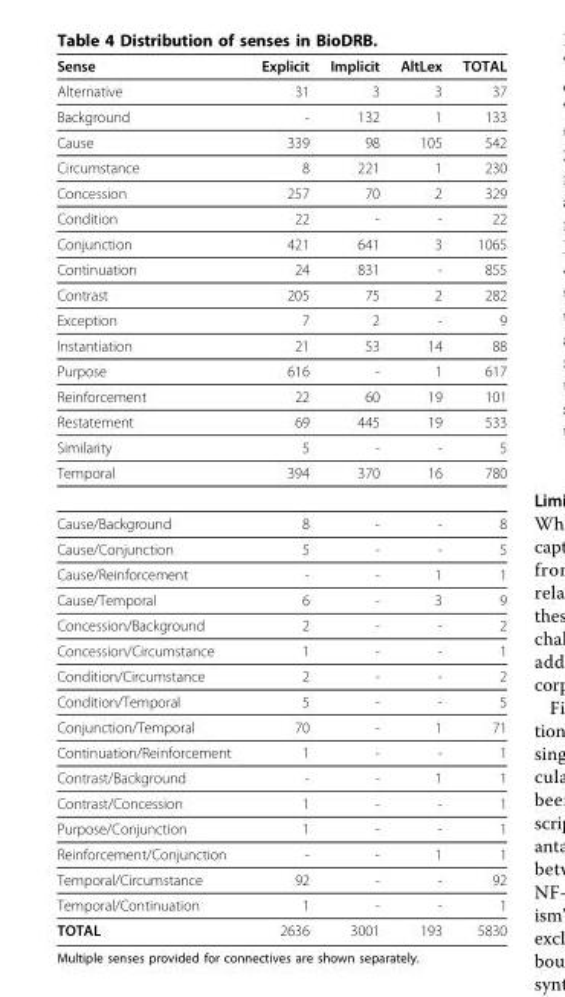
<table><thead><tr><td>Sense</td><td>Explicit</td><td>Implicit</td><td>AltLex</td><td>TOTAL</td></tr></thead><tbody><tr><td>Alternative</td><td>31</td><td>3</td><td>3</td><td>37</td></tr><tr><td>Background</td><td>-</td><td>132</td><td>1</td><td>133</td></tr><tr><td>Cause</td><td>339</td><td>98</td><td>105</td><td>542</td></tr><tr><td>Circumstance</td><td>8</td><td>221</td><td>1</td><td>230</td></tr><tr><td>Concession</td><td>257</td><td>70</td><td>2</td><td>329</td></tr><tr><td>Condition</td><td>22</td><td>-</td><td>-</td><td>22</td></tr><tr><td>Conjunction</td><td>421</td><td>641</td><td>3</td><td>1065</td></tr><tr><td>Continuation</td><td>24</td><td>831</td><td>-</td><td>855</td></tr><tr><td>Contrast</td><td>205</td><td>75</td><td>2</td><td>282</td></tr><tr><td>Exception</td><td>7</td><td>2</td><td>-</td><td>9</td></tr><tr><td>Instantiation</td><td>21</td><td>53</td><td>14</td><td>88</td></tr><tr><td>Purpose</td><td>616</td><td>-</td><td>1</td><td>617</td></tr><tr><td>Reinforcement</td><td>22</td><td>60</td><td>19</td><td>101</td></tr><tr><td>Restatement</td><td>69</td><td>445</td><td>19</td><td>533</td></tr><tr><td>Similarity</td><td>5</td><td>-</td><td>-</td><td>5</td></tr><tr><td>Temporal</td><td>394</td><td>370</td><td>16</td><td>780</td></tr><tr><td>Cause/Background</td><td>8</td><td>-</td><td>-</td><td>8</td></tr><tr><td>Cause/Conjunction</td><td>5</td><td>-</td><td>-</td><td>5</td></tr><tr><td>Cause/Reinforcement</td><td>-</td><td>-</td><td>1</td><td>1</td></tr><tr><td>Cause/Temporal</td><td>6</td><td>-</td><td>3</td><td>9</td></tr><tr><td>Concession/Background</td><td>2</td><td>-</td><td>-</td><td>2</td></tr><tr><td>Concession/Circumstance</td><td>1</td><td>-</td><td>-</td><td>1</td></tr><tr><td>Condition/Circumstance</td><td>2</td><td>-</td><td>-</td><td>2</td></tr><tr><td>Condition/Temporal</td><td>5</td><td>-</td><td>-</td><td>5</td></tr><tr><td>Conjunction/Temporal</td><td>70</td><td>-</td><td>1</td><td>71</td></tr><tr><td>Continuation/Reinforcement</td><td>1</td><td>-</td><td>-</td><td>1</td></tr><tr><td>Contrast/Background</td><td>-</td><td>-</td><td>1</td><td>1</td></tr><tr><td>Contrast/Concession</td><td>1</td><td>-</td><td>-</td><td>1</td></tr><tr><td>Purpose/Conjunction</td><td>1</td><td>-</td><td>-</td><td>1</td></tr><tr><td>Reinforcement/Conjunction</td><td>-</td><td>-</td><td>1</td><td>1</td></tr><tr><td>Temporal/Circumstance</td><td>92</td><td>-</td><td>-</td><td>92</td></tr><tr><td>Temporal/Continuation</td><td>1</td><td>-</td><td>-</td><td>1</td></tr><tr><td>TOTAL</td><td>2636</td><td>3001</td><td>193</td><td>5830</td></tr></tbody></table>